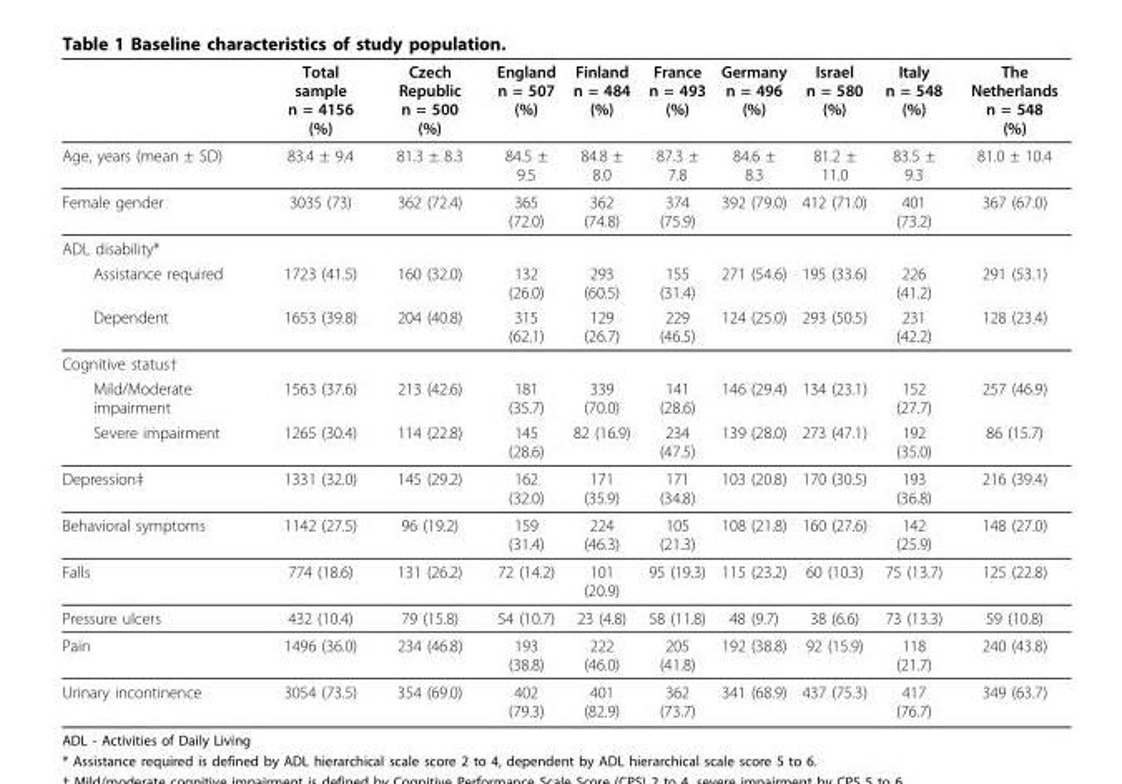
<table><thead><tr><td></td><td>Total sample n = 4156 (%)</td><td>Czech Republic n = 500 (%)</td><td>England n = 507 (%)</td><td>Finland n = 484 (%)</td><td>France n = 493 (%)</td><td>Germany n = 496 (%)</td><td>Israel n = 580 (%)</td><td>Italy n = 548 (%)</td><td>The Netherlands n = 548 (%)</td></tr></thead><tbody><tr><td>Age, years (mean ± SD)</td><td>83.4 ± 9.4</td><td>81.3 ± 8.3</td><td>84.5 ± 9.5</td><td>84.8 ± 8.0</td><td>87.3 ± 7.8</td><td>84.6 ± 8.3</td><td>81.2 ± 11.0</td><td>83.5 ± 9.3</td><td>81.0 ± 10.4</td></tr><tr><td>Female gender</td><td>3035 (73)</td><td>362 (72.4)</td><td>365 (72.0)</td><td>362 (74.8)</td><td>374 (75.9)</td><td>392 (79.0)</td><td>412 (71.0)</td><td>401 (73.2)</td><td>367 (67.0)</td></tr><tr><td colspan="10">ADL disability*</td></tr><tr><td>Assistance required</td><td>1723 (41.5)</td><td>160 (32.0)</td><td>132 (26.0)</td><td>293 (60.5)</td><td>155 (31.4)</td><td>271 (54.6)</td><td>195 (33.6)</td><td>226 (41.2)</td><td>291 (53.1)</td></tr><tr><td>Dependent</td><td>1653 (39.8)</td><td>204 (40.8)</td><td>315 (62.1)</td><td>129 (26.7)</td><td>229 (46.5)</td><td>124 (25.0)</td><td>293 (50.5)</td><td>231 (42.2)</td><td>128 (23.4)</td></tr><tr><td colspan="10">Cognitive status†</td></tr><tr><td>Mild/Moderate impairment</td><td>1563 (37.6)</td><td>213 (42.6)</td><td>181 (35.7)</td><td>339 (70.0)</td><td>141 (28.6)</td><td>146 (29.4)</td><td>134 (23.1)</td><td>152 (27.7)</td><td>257 (46.9)</td></tr><tr><td>Severe impairment</td><td>1265 (30.4)</td><td>114 (22.8)</td><td>145 (28.6)</td><td>82 (16.9)</td><td>234 (47.5)</td><td>139 (28.0)</td><td>273 (47.1)</td><td>192 (35.0)</td><td>86 (15.7)</td></tr><tr><td>Depression‡</td><td>1331 (32.0)</td><td>145 (29.2)</td><td>162 (32.0)</td><td>171 (35.9)</td><td>171 (34.8)</td><td>103 (20.8)</td><td>170 (30.5)</td><td>193 (36.8)</td><td>216 (39.4)</td></tr><tr><td>Behavioral symptoms</td><td>1142 (27.5)</td><td>96 (19.2)</td><td>159 (31.4)</td><td>224 (46.3)</td><td>105 (21.3)</td><td>108 (21.8)</td><td>160 (27.6)</td><td>142 (25.9)</td><td>148 (27.0)</td></tr><tr><td>Falls</td><td>774 (18.6)</td><td>131 (26.2)</td><td>72 (14.2)</td><td>101 (20.9)</td><td>95 (19.3)</td><td>115 (23.2)</td><td>60 (10.3)</td><td>75 (13.7)</td><td>125 (22.8)</td></tr><tr><td>Pressure ulcers</td><td>432 (10.4)</td><td>79 (15.8)</td><td>54 (10.7)</td><td>23 (4.8)</td><td>58 (11.8)</td><td>48 (9.7)</td><td>38 (6.6)</td><td>73 (13.3)</td><td>59 (10.8)</td></tr><tr><td>Pain</td><td>1496 (36.0)</td><td>234 (46.8)</td><td>193 (38.8)</td><td>222 (46.0)</td><td>205 (41.8)</td><td>192 (38.8)</td><td>92 (15.9)</td><td>118 (21.7)</td><td>240 (43.8)</td></tr><tr><td>Urinary incontinence</td><td>3054 (73.5)</td><td>354 (69.0)</td><td>402 (79.3)</td><td>401 (82.9)</td><td>362 (73.7)</td><td>341 (68.9)</td><td>437 (75.3)</td><td>417 (76.7)</td><td>349 (63.7)</td></tr></tbody></table>